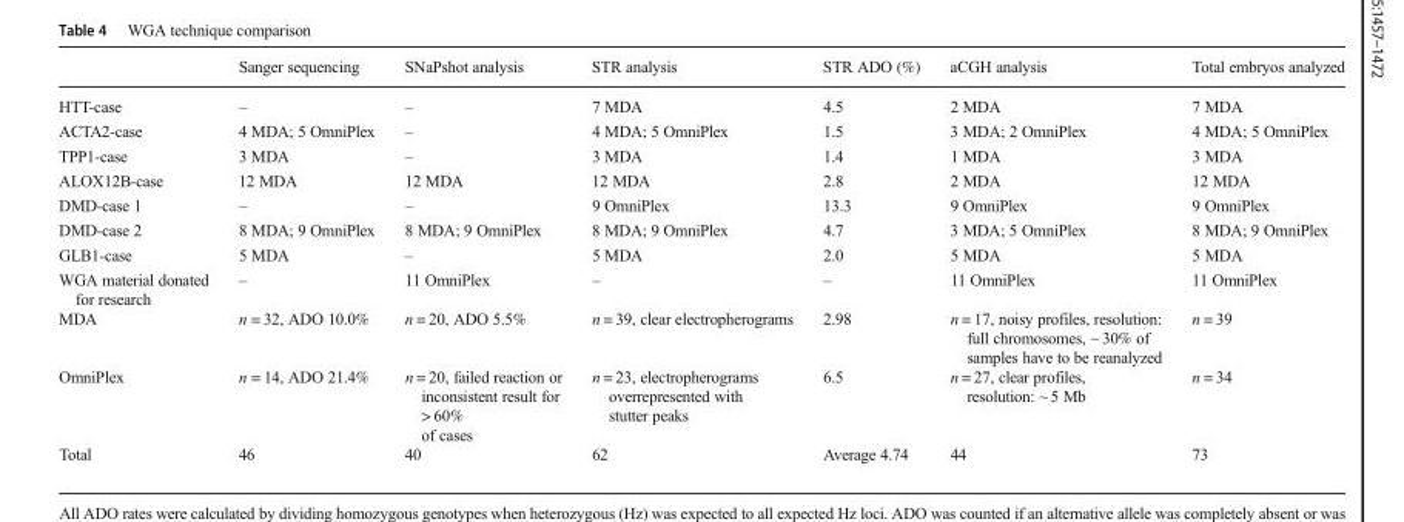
<table><thead><tr><td></td><td>Sanger sequencing</td><td>SNaPshot analysis</td><td>STR analysis</td><td>STR ADO (%)</td><td>aCGH analysis</td><td>Total embryos analyzed</td></tr></thead><tbody><tr><td>HTT-case</td><td>–</td><td>–</td><td>7 MDA</td><td>4.5</td><td>2 MDA</td><td>7 MDA</td></tr><tr><td>ACTA2-case</td><td>4 MDA; 5 OmniPlex</td><td>–</td><td>4 MDA; 5 OmniPlex</td><td>1.5</td><td>3 MDA; 2 OmniPlex</td><td>4 MDA; 5 OmniPlex</td></tr><tr><td>TPP1-case</td><td>3 MDA</td><td>–</td><td>3 MDA</td><td>1.4</td><td>1 MDA</td><td>3 MDA</td></tr><tr><td>ALOX12B-case</td><td>12 MDA</td><td>12 MDA</td><td>12 MDA</td><td>2.8</td><td>2 MDA</td><td>12 MDA</td></tr><tr><td>DMD-case 1</td><td>–</td><td>–</td><td>9 OmniPlex</td><td>13.3</td><td>9 OmniPlex</td><td>9 OmniPlex</td></tr><tr><td>DMD-case 2</td><td>8 MDA; 9 OmniPlex</td><td>8 MDA; 9 OmniPlex</td><td>8 MDA; 9 OmniPlex</td><td>4.7</td><td>3 MDA; 5 OmniPlex</td><td>8 MDA; 9 OmniPlex</td></tr><tr><td>GLB1-case</td><td>5 MDA</td><td>–</td><td>5 MDA</td><td>2.0</td><td>5 MDA</td><td>5 MDA</td></tr><tr><td>WGA material donated for research</td><td>–</td><td>11 OmniPlex</td><td>–</td><td>–</td><td>11 OmniPlex</td><td>11 OmniPlex</td></tr><tr><td>MDA</td><td>n = 32, ADO 10.0%</td><td>n = 20, ADO 5.5%</td><td>n = 39, clear electropherograms</td><td>2.98</td><td>n = 17, noisy profiles, resolution: full chromosomes, ~ 30% of samples have to be reanalyzed</td><td>n = 39</td></tr><tr><td>OmniPlex</td><td>n = 14, ADO 21.4%</td><td>n = 20, failed reaction or inconsistent result for &gt; 60% of cases</td><td>n = 23, electropherograms overrepresented with stutter peaks</td><td>6.5</td><td>n = 27, clear profiles, resolution: ~ 5 Mb</td><td>n = 34</td></tr><tr><td>Total</td><td>46</td><td>40</td><td>62</td><td>Average 4.74</td><td>44</td><td>73</td></tr></tbody></table>